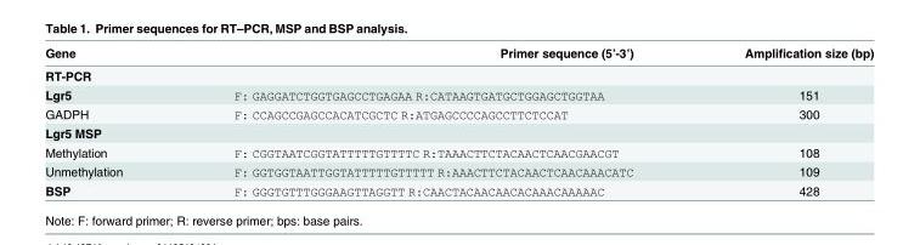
<table><thead><tr><td>Gene</td><td>Primer sequence (5’-3’)</td><td>Amplification size (bp)</td></tr></thead><tbody><tr><td colspan="3">RT-PCR</td></tr><tr><td>Lgr5</td><td>F: GAGGATCTGGTGAGCCTGAGAA R:CATAAGTGATGCTGGAGCTGGTAA</td><td>151</td></tr><tr><td>GADPH</td><td>F: CCAGCCGAGCCACATCGCTC R:ATGAGCCCCAGCCTTCTCCAT</td><td>300</td></tr><tr><td colspan="3">Lgr5 MSP</td></tr><tr><td>Methylation</td><td>F: CGGTAATCGGTATTTTTGTTTTC R:TAAACTTCTACAACTCAACGAACGT</td><td>108</td></tr><tr><td>Unmethylation</td><td>F: GGTGGTAATTGGTATTTTTGTTTTT R:AAACTTCTACAACTCAACAAACATC</td><td>109</td></tr><tr><td>BSP</td><td>F: GGGTGTTTGGGAAGTTAGGTT R:CAACTACAACAACACAAACAAAAAC</td><td>428</td></tr></tbody></table>